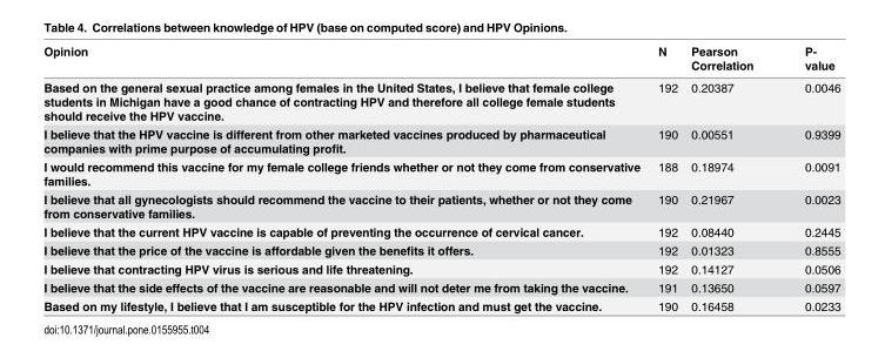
<table><thead><tr><td>Opinion</td><td>N</td><td>Pearson Correlation</td><td>P- value</td></tr></thead><tbody><tr><td>Based on the general sexual practice among females in the United States, I believe that female college students in Michigan have a good chance of contracting HPV and therefore all college female students should receive the HPV vaccine.</td><td>192</td><td>0.20387</td><td>0.0046</td></tr><tr><td>I believe that the HPV vaccine is different from other marketed vaccines produced by pharmaceutical companies with prime purpose of accumulating profit.</td><td>190</td><td>0.00551</td><td>0.9399</td></tr><tr><td>I would recommend this vaccine for my female college friends whether or not they come from conservative families.</td><td>188</td><td>0.18974</td><td>0.0091</td></tr><tr><td>I believe that all gynecologists should recommend the vaccine to their patients, whether or not they come from conservative families.</td><td>190</td><td>0.21967</td><td>0.0023</td></tr><tr><td>I believe that the current HPV vaccine is capable of preventing the occurrence of cervical cancer.</td><td>192</td><td>0.08440</td><td>0.2445</td></tr><tr><td>I believe that the price of the vaccine is affordable given the benefits it offers.</td><td>192</td><td>0.01323</td><td>0.8555</td></tr><tr><td>I believe that contracting HPV virus is serious and life threatening.</td><td>192</td><td>0.14127</td><td>0.0506</td></tr><tr><td>I believe that the side effects of the vaccine are reasonable and will not deter me from taking the vaccine.</td><td>191</td><td>0.13650</td><td>0.0597</td></tr><tr><td>Based on my lifestyle, I believe that I am susceptible for the HPV infection and must get the vaccine.</td><td>190</td><td>0.16458</td><td>0.0233</td></tr></tbody></table>